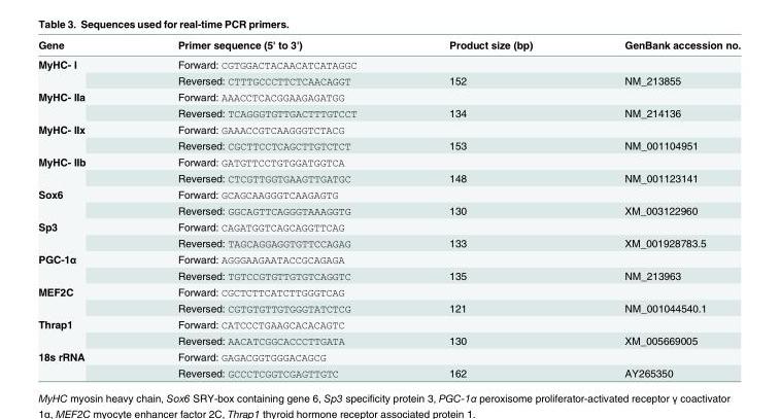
<table><thead><tr><td>Gene</td><td>Primer sequence (5&#x27; to 3&#x27;)</td><td>Product size (bp)</td><td>GenBank accession no.</td></tr></thead><tbody><tr><td rowspan="2">MyHC- I</td><td>Forward: CGTGGACTACAACATCATAGGC</td><td></td><td></td></tr><tr><td>Reversed: CTTTGCCCTTCTCAACAGGT</td><td>152</td><td>NM_213855</td></tr><tr><td rowspan="2">MyHC- IIa</td><td>Forward: AAACCTCACGGAAGAGATGG</td><td></td><td></td></tr><tr><td>Reversed: TCAGGGTGTTGACTTTGTCCT</td><td>134</td><td>NM_214136</td></tr><tr><td rowspan="2">MyHC- IIx</td><td>Forward: GAAACCGTCAAGGGTCTACG</td><td></td><td></td></tr><tr><td>Reversed: CGCTTCCTCAGCTTGTCTCT</td><td>153</td><td>NM_001104951</td></tr><tr><td rowspan="2">MyHC- IIb</td><td>Forward: GATGTTCCTGTGGATGGTCA</td><td></td><td></td></tr><tr><td>Reversed: CTCGTTGGTGAAGTTGATGC</td><td>148</td><td>NM_001123141</td></tr><tr><td rowspan="2">Sox6</td><td>Forward: GCAGCAAGGGTCAAGAGTG</td><td></td><td></td></tr><tr><td>Reversed: GGCAGTTCAGGGTAAAGGTG</td><td>130</td><td>XM_003122960</td></tr><tr><td rowspan="2">Sp3</td><td>Forward: CAGATGGTCAGCAGGTTCAG</td><td></td><td></td></tr><tr><td>Reversed: TAGCAGGAGGTGTTCCAGAG</td><td>133</td><td>XM_001928783.5</td></tr><tr><td rowspan="2">PGC-1α</td><td>Forward: AGGGAAGAATACCGCAGAGA</td><td></td><td></td></tr><tr><td>Reversed: TGTCCGTGTTGTGTCAGGTC</td><td>135</td><td>NM_213963</td></tr><tr><td rowspan="2">MEF2C</td><td>Forward: CGCTCTTCATCTTGGGTCAG</td><td></td><td></td></tr><tr><td>Reversed: CGTGTGTTGTGGGTATCTCG</td><td>121</td><td>NM_001044540.1</td></tr><tr><td rowspan="2">Thrap1</td><td>Forward: CATCCCTGAAGCACACAGTC</td><td></td><td></td></tr><tr><td>Reversed: AACATCGGCACCCTTGATA</td><td>130</td><td>XM_005669005</td></tr><tr><td rowspan="2">18s rRNA</td><td>Forward: GAGACGGTGGGACAGCG</td><td></td><td></td></tr><tr><td>Reversed: GCCCTCGGTCGAGTTGTC</td><td>162</td><td>AY265350</td></tr></tbody></table>